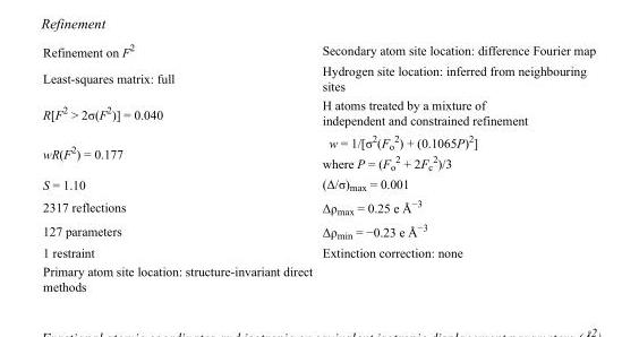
<table><tbody><tr><td>Refinement on F<sup>2</sup></td><td>Secondary atom site location: difference Fourier map</td></tr><tr><td>Least-squares matrix: full</td><td>Hydrogen site location: inferred from neighbouring sites</td></tr><tr><td>R[F<sup>2</sup> &gt; 2σ(F<sup>2</sup>)] = 0.040</td><td>H atoms treated by a mixture of independent and constrained refinement</td></tr><tr><td>wR(F<sup>2</sup>) = 0.177</td><td>w = 1/[σ<sup>2</sup>(F<sub>o</sub> <sup>2</sup>) + (0.1065P)<sup>2</sup>] where P = (F<sub>o</sub> <sup>2</sup> + 2F<sub>c</sub> <sup>2</sup>)/3</td></tr><tr><td>S = 1.10</td><td>(Δ/σ)<sub>max</sub> = 0.001</td></tr><tr><td>2317 reflections</td><td>Δρ<sub>max</sub> = 0.25 e Å<sup>−3</sup></td></tr><tr><td>127 parameters</td><td>Δρ<sub>min</sub> = −0.23 e Å<sup>−3</sup></td></tr><tr><td>1 restraint</td><td>Extinction correction: none</td></tr><tr><td>Primary atom site location: structure-invariant direct methods</td><td></td></tr></tbody></table>